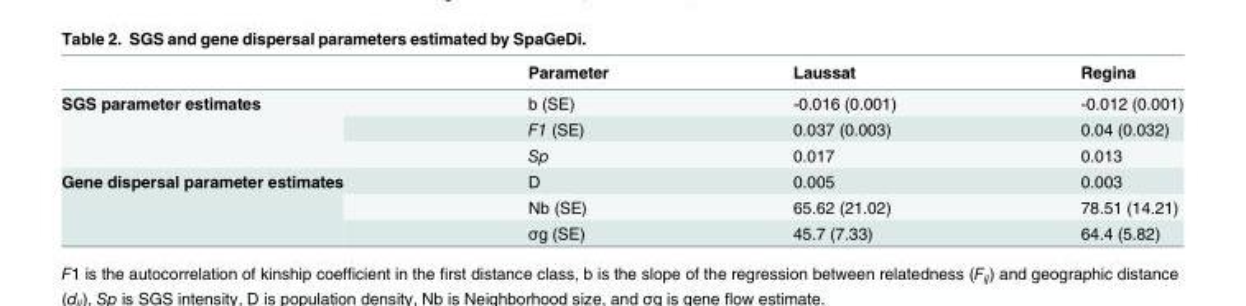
<table><thead><tr><td></td><td>Parameter</td><td>Laussat</td><td>Regina</td></tr></thead><tbody><tr><td rowspan="3">SGS parameter estimates</td><td>b (SE)</td><td>-0.016 (0.001)</td><td>-0.012 (0.001)</td></tr><tr><td>F1 (SE)</td><td>0.037 (0.003)</td><td>0.04 (0.032)</td></tr><tr><td>Sp</td><td>0.017</td><td>0.013</td></tr><tr><td rowspan="3">Gene dispersal parameter estimates</td><td>D</td><td>0.005</td><td>0.003</td></tr><tr><td>Nb (SE)</td><td>65.62 (21.02)</td><td>78.51 (14.21)</td></tr><tr><td>σg (SE)</td><td>45.7 (7.33)</td><td>64.4 (5.82)</td></tr></tbody></table>